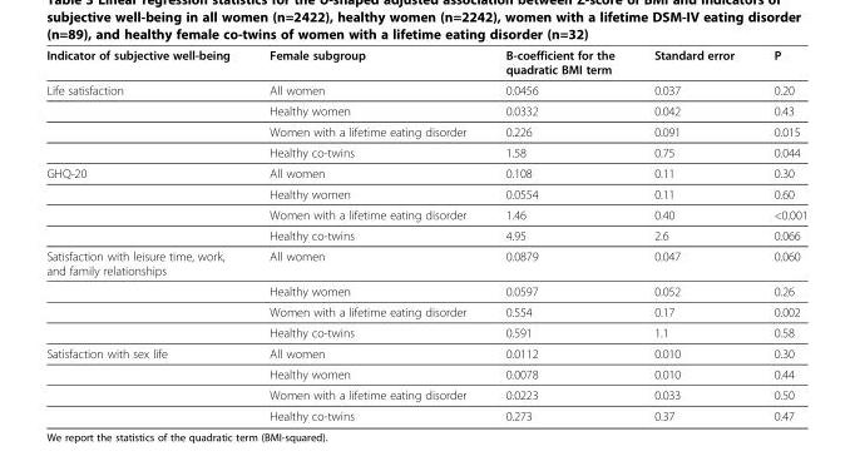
<table><thead><tr><td>Indicator of subjective well-being</td><td>Female subgroup</td><td>Β-coefficient for the quadratic BMI term</td><td>Standard error</td><td>P</td></tr></thead><tbody><tr><td rowspan="4">Life satisfaction</td><td>All women</td><td>0.0456</td><td>0.037</td><td>0.20</td></tr><tr><td>Healthy women</td><td>0.0332</td><td>0.042</td><td>0.43</td></tr><tr><td>Women with a lifetime eating disorder</td><td>0.226</td><td>0.091</td><td>0.015</td></tr><tr><td>Healthy co-twins</td><td>1.58</td><td>0.75</td><td>0.044</td></tr><tr><td rowspan="4">GHQ-20</td><td>All women</td><td>0.108</td><td>0.11</td><td>0.30</td></tr><tr><td>Healthy women</td><td>0.0554</td><td>0.11</td><td>0.60</td></tr><tr><td>Women with a lifetime eating disorder</td><td>1.46</td><td>0.40</td><td>&lt;0.001</td></tr><tr><td>Healthy co-twins</td><td>4.95</td><td>2.6</td><td>0.066</td></tr><tr><td rowspan="4">Satisfaction with leisure time, work, and family relationships</td><td>All women</td><td>0.0879</td><td>0.047</td><td>0.060</td></tr><tr><td>Healthy women</td><td>0.0597</td><td>0.052</td><td>0.26</td></tr><tr><td>Women with a lifetime eating disorder</td><td>0.554</td><td>0.17</td><td>0.002</td></tr><tr><td>Healthy co-twins</td><td>0.591</td><td>1.1</td><td>0.58</td></tr><tr><td rowspan="4">Satisfaction with sex life</td><td>All women</td><td>0.0112</td><td>0.010</td><td>0.30</td></tr><tr><td>Healthy women</td><td>0.0078</td><td>0.010</td><td>0.44</td></tr><tr><td>Women with a lifetime eating disorder</td><td>0.0223</td><td>0.033</td><td>0.50</td></tr><tr><td>Healthy co-twins</td><td>0.273</td><td>0.37</td><td>0.47</td></tr></tbody></table>